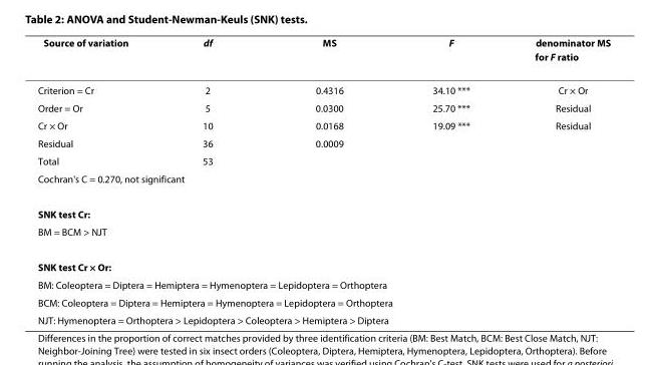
<table><thead><tr><td>Source of variation</td><td>df</td><td>MS</td><td>F</td><td>denominator MS for F ratio</td></tr></thead><tbody><tr><td>Criterion = Cr</td><td>2</td><td>0.4316</td><td>34.10 ***</td><td>Cr × Or</td></tr><tr><td>Order = Or</td><td>5</td><td>0.0300</td><td>25.70 ***</td><td>Residual</td></tr><tr><td>Cr × Or</td><td>10</td><td>0.0168</td><td>19.09 ***</td><td>Residual</td></tr><tr><td>Residual</td><td>36</td><td>0.0009</td><td></td><td></td></tr><tr><td>Total</td><td>53</td><td></td><td></td><td></td></tr><tr><td colspan="5">Cochran&#x27;s C = 0.270, not significant</td></tr><tr><td colspan="5">SNK test Cr:</td></tr><tr><td colspan="5">BM = BCM &gt; NJT</td></tr><tr><td colspan="5">SNK test Cr × Or:</td></tr><tr><td colspan="5">BM: Coleoptera = Diptera = Hemiptera = Hymenoptera = Lepidoptera = Orthoptera</td></tr><tr><td colspan="5">BCM: Coleoptera = Diptera = Hemiptera = Hymenoptera = Lepidoptera = Orthoptera</td></tr><tr><td colspan="5">NJT: Hymenoptera = Orthoptera &gt; Lepidoptera &gt; Coleoptera &gt; Hemiptera &gt; Diptera</td></tr></tbody></table>